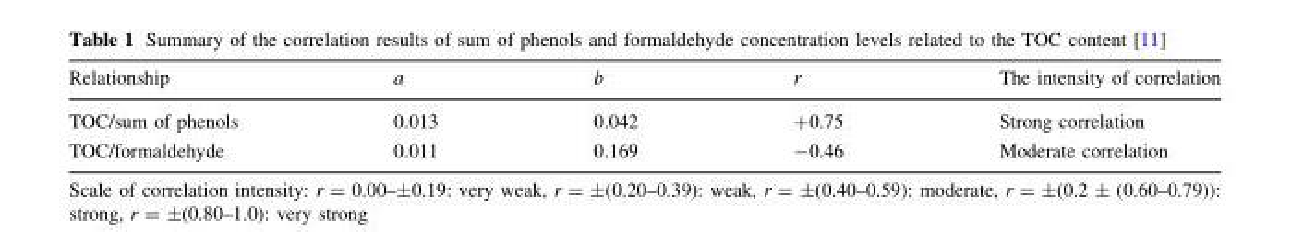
<table><thead><tr><td>Relationship</td><td>a</td><td>b</td><td>r</td><td>The intensity of correlation</td></tr></thead><tbody><tr><td>TOC/sum of phenols</td><td>0.013</td><td>0.042</td><td>+0.75</td><td>Strong correlation</td></tr><tr><td>TOC/formaldehyde</td><td>0.011</td><td>0.169</td><td>-0.46</td><td>Moderate correlation</td></tr></tbody></table>